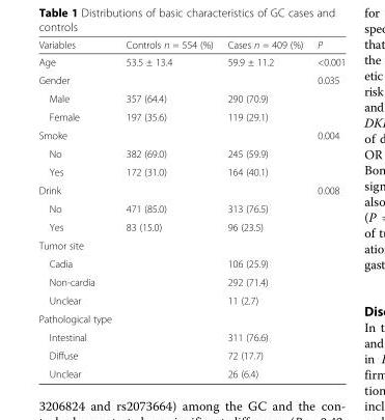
<table><thead><tr><td>Variables</td><td>Controls n = 554 (%)</td><td>Cases n = 409 (%)</td><td>P</td></tr></thead><tbody><tr><td>Age</td><td>53.5 ± 13.4</td><td>59.9 ± 11.2</td><td>&lt;0.001</td></tr><tr><td>Gender</td><td></td><td></td><td>0.035</td></tr><tr><td>Male</td><td>357 (64.4)</td><td>290 (70.9)</td><td></td></tr><tr><td>Female</td><td>197 (35.6)</td><td>119 (29.1)</td><td></td></tr><tr><td>Smoke</td><td></td><td></td><td>0.004</td></tr><tr><td>No</td><td>382 (69.0)</td><td>245 (59.9)</td><td></td></tr><tr><td>Yes</td><td>172 (31.0)</td><td>164 (40.1)</td><td></td></tr><tr><td>Drink</td><td></td><td></td><td>0.008</td></tr><tr><td>No</td><td>471 (85.0)</td><td>313 (76.5)</td><td></td></tr><tr><td>Yes</td><td>83 (15.0)</td><td>96 (23.5)</td><td></td></tr><tr><td colspan="4">Tumor site</td></tr><tr><td>Cadia</td><td></td><td>106 (25.9)</td><td></td></tr><tr><td>Non-cardia</td><td></td><td>292 (71.4)</td><td></td></tr><tr><td>Unclear</td><td></td><td>11 (2.7)</td><td></td></tr><tr><td colspan="4">Pathological type</td></tr><tr><td>Intestinal</td><td></td><td>311 (76.6)</td><td></td></tr><tr><td>Diffuse</td><td></td><td>72 (17.7)</td><td></td></tr><tr><td>Unclear</td><td></td><td>26 (6.4)</td><td></td></tr></tbody></table>